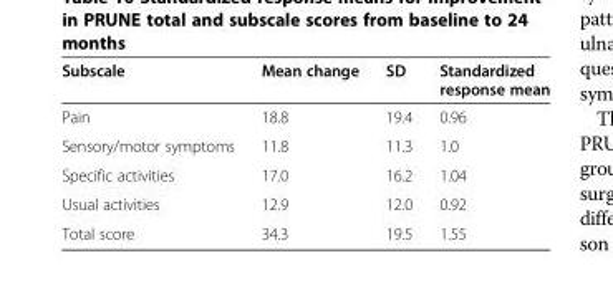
<table><thead><tr><td>Subscale</td><td>Mean change</td><td>SD</td><td>Standardized response mean</td></tr></thead><tbody><tr><td>Pain</td><td>18.8</td><td>19.4</td><td>0.96</td></tr><tr><td>Sensory/motor symptoms</td><td>11.8</td><td>11.3</td><td>1.0</td></tr><tr><td>Specific activities</td><td>17.0</td><td>16.2</td><td>1.04</td></tr><tr><td>Usual activities</td><td>12.9</td><td>12.0</td><td>0.92</td></tr><tr><td>Total score</td><td>34.3</td><td>19.5</td><td>1.55</td></tr></tbody></table>